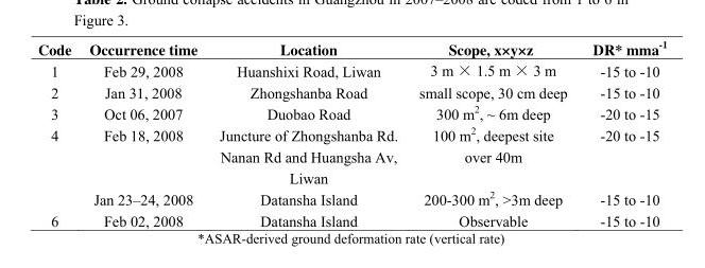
<table><thead><tr><td>Code</td><td>Occurrence time</td><td>Location</td><td>Scope, x×y×z</td><td>DR* mma<sup>-1</sup></td></tr></thead><tbody><tr><td>1</td><td>Feb 29, 2008</td><td>Huanshixi Road, Liwan</td><td>3 m × 1.5 m × 3 m</td><td>-15 to -10</td></tr><tr><td>2</td><td>Jan 31, 2008</td><td>Zhongshanba Road</td><td>small scope, 30 cm deep</td><td>-15 to -10</td></tr><tr><td>3</td><td>Oct 06, 2007</td><td>Duobao Road</td><td>300 m2, ~ 6m deep</td><td>-20 to -15</td></tr><tr><td rowspan="2">4</td><td>Feb 18, 2008</td><td>Juncture of Zhongshanba Rd. Nanan Rd and Huangsha Av, Liwan</td><td>100 m<sup>2</sup>, deepest site over 40m</td><td>-20 to -15</td></tr><tr><td>Jan 23–24, 2008</td><td>Datansha Island</td><td>200-300 m<sup>2</sup>, &gt;3m deep</td><td>-15 to -10</td></tr><tr><td>6</td><td>Feb 02, 2008</td><td>Datansha Island</td><td>Observable</td><td>-15 to -10</td></tr></tbody></table>